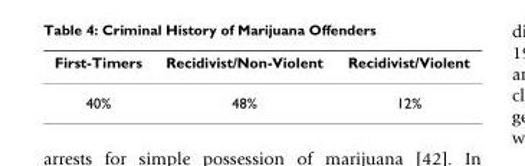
<table><thead><tr><td>First-Timers</td><td>Recidivist/Non-Violent</td><td>Recidivist/Violent</td></tr></thead><tbody><tr><td>40%</td><td>48%</td><td>12%</td></tr></tbody></table>